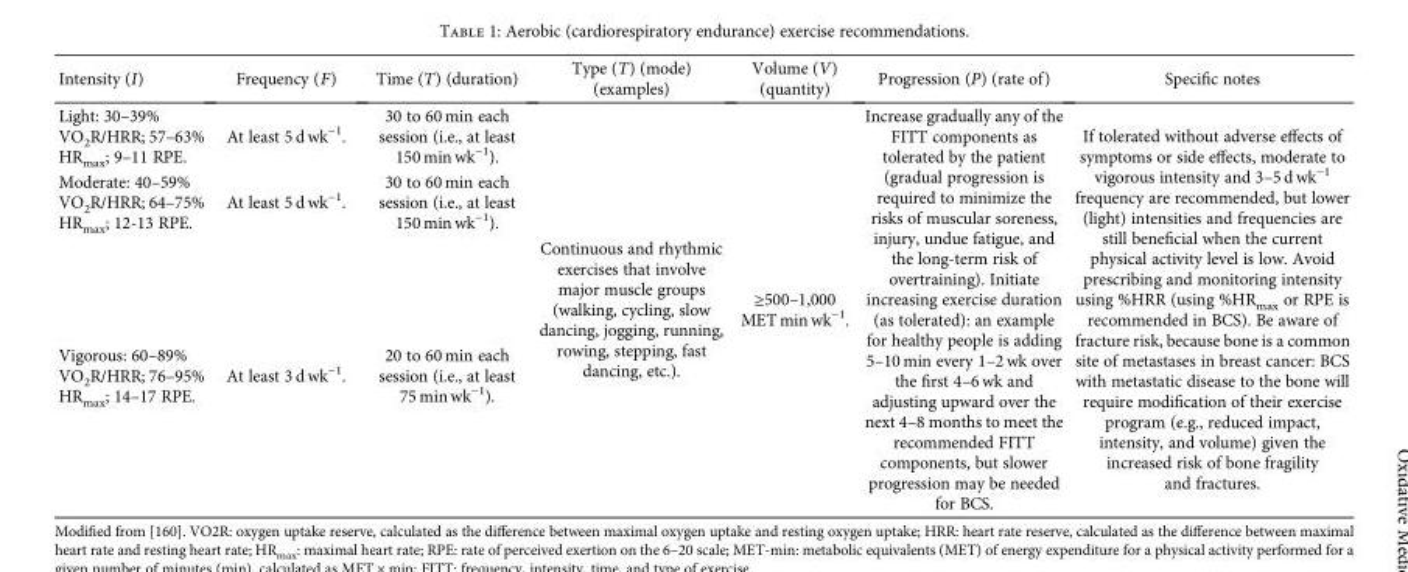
<table><thead><tr><td>Intensity (I)</td><td>Frequency (F)</td><td>Time (T) (duration)</td><td>Type (T) (mode) (examples)</td><td>Volume (V) (quantity)</td><td>Progression (P) (rate of)</td><td>Specific notes</td></tr></thead><tbody><tr><td>Light: 30–39% VO<sub>2</sub>R/HRR; 57–63% HR<sub>max</sub>; 9–11 RPE.</td><td>At least 5 d wk<sup>−1</sup>.</td><td>30 to 60 min each session (i.e., at least 150 min wk<sup>−1</sup>).</td><td rowspan="3">Continuous and rhythmic exercises that involve major muscle groups (walking, cycling, slow dancing, jogging, running, rowing, stepping, fast dancing, etc.).</td><td rowspan="3">≥500–1,000 MET min wk<sup>−1</sup>.</td><td rowspan="3">Increase gradually any of the FITT components as tolerated by the patient (gradual progression is required to minimize the risks of muscular soreness, injury, undue fatigue, and the long-term risk of overtraining). Initiate increasing exercise duration (as tolerated): an example for healthy people is adding 5–10 min every 1–2 wk over the first 4–6 wk and adjusting upward over the next 4–8 months to meet the recommended FITT components, but slower progression may be needed for BCS.</td><td rowspan="3">If tolerated without adverse effects of symptoms or side effects, moderate to vigorous intensity and 3–5 d wk<sup>−1</sup> frequency are recommended, but lower (light) intensities and frequencies are still beneficial when the current physical activity level is low. Avoid prescribing and monitoring intensity using %HRR (using %HR<sub>max</sub> or RPE is recommended in BCS). Be aware of fracture risk, because bone is a common site of metastases in breast cancer: BCS with metastatic disease to the bone will require modification of their exercise program (e.g., reduced impact, intensity, and volume) given the increased risk of bone fragility and fractures.</td></tr><tr><td>Moderate: 40–59% VO<sub>2</sub>R/HRR; 64–75% HR<sub>max</sub>; 12-13 RPE.</td><td>At least 5 d wk<sup>−1</sup>.</td><td>30 to 60 min each session (i.e., at least 150 min wk<sup>−1</sup>).</td></tr><tr><td>Vigorous: 60–89% VO<sub>2</sub>R/HRR; 76–95% HR<sub>max</sub>; 14–17 RPE.</td><td>At least 3 d wk<sup>−1</sup>.</td><td>20 to 60 min each session (i.e., at least 75 min wk<sup>−1</sup>).</td></tr></tbody></table>